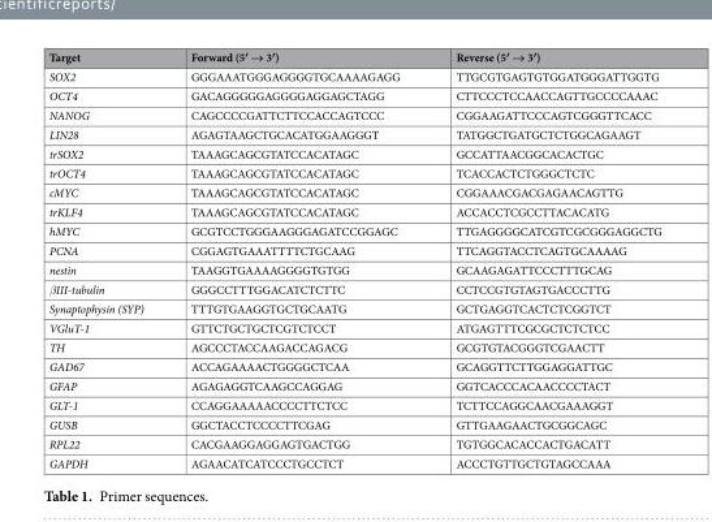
<table><thead><tr><td>Target</td><td>Forward (5′ → 3′)</td><td>Reverse (5′ → 3′)</td></tr></thead><tbody><tr><td>SOX2</td><td>GGGAAATGGGAGGGGTGCAAAAGAGG</td><td>TTGCGTGAGTGTGGATGGGATTGGTG</td></tr><tr><td>OCT4</td><td>GACAGGGGGAGGGGAGGAGCTAGG</td><td>CTTCCCTCCAACCAGTTGCCCCAAAC</td></tr><tr><td>NANOG</td><td>CAGCCCCGATTCTTCCACCAGTCCC</td><td>CGGAAGATTCCCAGTCGGGTTCACC</td></tr><tr><td>LIN28</td><td>AGAGTAAGCTGCACATGGAAGGGT</td><td>TATGGCTGATGCTCTGGCAGAAGT</td></tr><tr><td>trSOX2</td><td>TAAAGCAGCGTATCCACATAGC</td><td>GCCATTAACGGCACACTGC</td></tr><tr><td>trOCT4</td><td>TAAAGCAGCGTATCCACATAGC</td><td>TCACCACTCTGGGCTCTC</td></tr><tr><td>cMYC</td><td>TAAAGCAGCGTATCCACATAGC</td><td>CGGAAACGACGAGAACAGTTG</td></tr><tr><td>trKLF4</td><td>TAAAGCAGCGTATCCACATAGC</td><td>ACCACCTCGCCTTACACATG</td></tr><tr><td>hMYC</td><td>GCGTCCTGGGAAGGGAGATCCGGAGC</td><td>TTGAGGGGCATCGTCGCGGGAGGCTG</td></tr><tr><td>PCNA</td><td>CGGAGTGAAATTTTCTGCAAG</td><td>TTCAGGTACCTCAGTGCAAAAG</td></tr><tr><td>nestin</td><td>TAAGGTGAAAAGGGGTGTGG</td><td>GCAAGAGATTCCCTTTGCAG</td></tr><tr><td>βIII-tubulin</td><td>GGGCCTTTGGACATCTCTTC</td><td>CCTCCGTGTAGTGACCCTTG</td></tr><tr><td>Synaptophysin (SYP)</td><td>TTTGTGAAGGTGCTGCAATG</td><td>GCTGAGGTCACTCTCGGTCT</td></tr><tr><td>VGluT-1</td><td>GTTCTGCTGCTCGTCTCCT</td><td>ATGAGTTTCGCGCTCTCTCC</td></tr><tr><td>TH</td><td>AGCCCTACCAAGACCAGACG</td><td>GCGTGTACGGGTCGAACTT</td></tr><tr><td>GAD67</td><td>ACCAGAAAACTGGGGCTCAA</td><td>GCAGGTTCTTGGAGGATTGC</td></tr><tr><td>GFAP</td><td>AGAGAGGTCAAGCCAGGAG</td><td>GGTCACCCACAACCCCTACT</td></tr><tr><td>GLT-1</td><td>CCAGGAAAAACCCCTTCTCC</td><td>TCTTCCAGGCAACGAAAGGT</td></tr><tr><td>GUSB</td><td>GGCTACCTCCCCTTCGAG</td><td>GTTGAAGAACTGCGGCAGC</td></tr><tr><td>RPL22</td><td>CACGAAGGAGGAGTGACTGG</td><td>TGTGGCACACCACTGACATT</td></tr><tr><td>GAPDH</td><td>AGAACATCATCCCTGCCTCT</td><td>ACCCTGTTGCTGTAGCCAAA</td></tr></tbody></table>